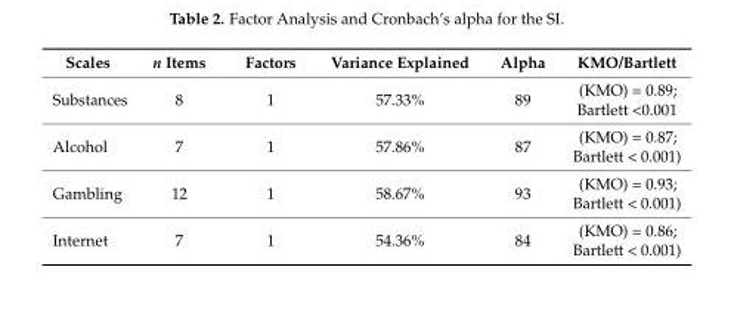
<table><thead><tr><td>Scales</td><td>n Items</td><td>Factors</td><td>Variance Explained</td><td>Alpha</td><td>KMO/Bartlett</td></tr></thead><tbody><tr><td>Substances</td><td>8</td><td>1</td><td>57.33%</td><td>89</td><td>(KMO) = 0.89; Bartlett &lt;0.001</td></tr><tr><td>Alcohol</td><td>7</td><td>1</td><td>57.86%</td><td>87</td><td>(KMO) = 0.87; Bartlett &lt; 0.001)</td></tr><tr><td>Gambling</td><td>12</td><td>1</td><td>58.67%</td><td>93</td><td>(KMO) = 0.93; Bartlett &lt; 0.001)</td></tr><tr><td>Internet</td><td>7</td><td>1</td><td>54.36%</td><td>84</td><td>(KMO) = 0.86; Bartlett &lt; 0.001)</td></tr></tbody></table>